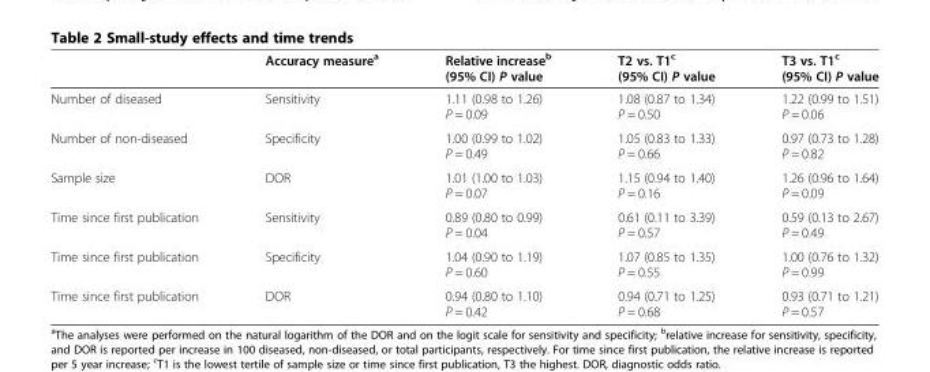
<table><thead><tr><td></td><td>Accuracy measure<sup>a</sup></td><td>Relative increase<sup>b</sup> (95% CI) P value</td><td>T2 vs. T1<sup>c</sup> (95% CI) P value</td><td>T3 vs. T1<sup>c</sup> (95% CI) P value</td></tr></thead><tbody><tr><td>Number of diseased</td><td>Sensitivity</td><td>1.11 (0.98 to 1.26) P = 0.09</td><td>1.08 (0.87 to 1.34) P = 0.50</td><td>1.22 (0.99 to 1.51) P = 0.06</td></tr><tr><td>Number of non-diseased</td><td>Specificity</td><td>1.00 (0.99 to 1.02) P = 0.49</td><td>1.05 (0.83 to 1.33) P = 0.66</td><td>0.97 (0.73 to 1.28) P = 0.82</td></tr><tr><td>Sample size</td><td>DOR</td><td>1.01 (1.00 to 1.03) P = 0.07</td><td>1.15 (0.94 to 1.40) P = 0.16</td><td>1.26 (0.96 to 1.64) P = 0.09</td></tr><tr><td>Time since first publication</td><td>Sensitivity</td><td>0.89 (0.80 to 0.99) P = 0.04</td><td>0.61 (0.11 to 3.39) P = 0.57</td><td>0.59 (0.13 to 2.67) P = 0.49</td></tr><tr><td>Time since first publication</td><td>Specificity</td><td>1.04 (0.90 to 1.19) P = 0.60</td><td>1.07 (0.85 to 1.35) P = 0.55</td><td>1.00 (0.76 to 1.32) P = 0.99</td></tr><tr><td>Time since first publication</td><td>DOR</td><td>0.94 (0.80 to 1.10) P = 0.42</td><td>0.94 (0.71 to 1.25) P = 0.68</td><td>0.93 (0.71 to 1.21) P = 0.57</td></tr></tbody></table>